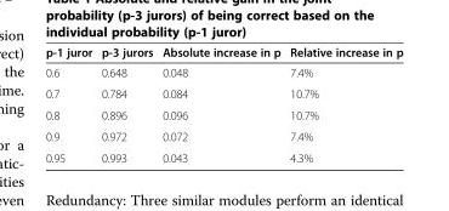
<table><thead><tr><td>p-1 juror</td><td>p-3 jurors</td><td>Absolute increase in p</td><td>Relative increase in p</td></tr></thead><tbody><tr><td>0.6</td><td>0.648</td><td>0.048</td><td>7.4%</td></tr><tr><td>0.7</td><td>0.784</td><td>0.084</td><td>10.7%</td></tr><tr><td>0.8</td><td>0.896</td><td>0.096</td><td>10.7%</td></tr><tr><td>0.9</td><td>0.972</td><td>0.072</td><td>7.4%</td></tr><tr><td>0.95</td><td>0.993</td><td>0.043</td><td>4.3%</td></tr></tbody></table>